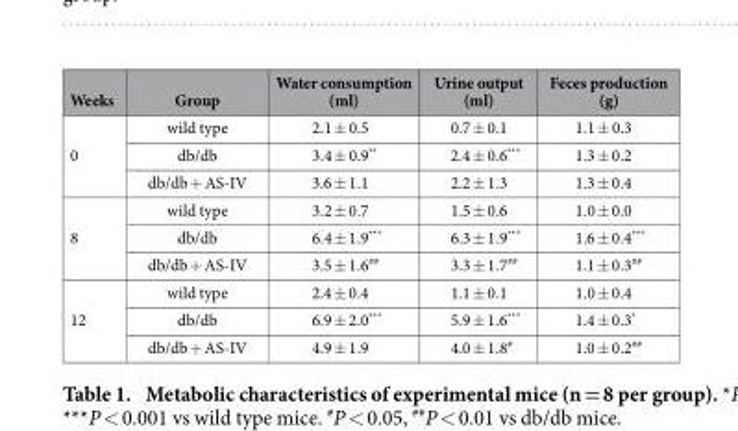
<table><thead><tr><td>Weeks</td><td>Group</td><td>Water consumption (ml)</td><td>Urine output (ml)</td><td>Feces production (g)</td></tr></thead><tbody><tr><td rowspan="3">0</td><td>wild type</td><td>2.1 ± 0.5</td><td>0.7 ± 0.1</td><td>1.1 ± 0.3</td></tr><tr><td>db/db</td><td>3.4 ± 0.9**</td><td>2.4 ± 0.6***</td><td>1.3 ± 0.2</td></tr><tr><td>db/db + AS-IV</td><td>3.6 ± 1.1</td><td>2.2 ± 1.3</td><td>1.3 ± 0.4</td></tr><tr><td rowspan="3">8</td><td>wild type</td><td>3.2 ± 0.7</td><td>1.5 ± 0.6</td><td>1.0 ± 0.0</td></tr><tr><td>db/db</td><td>6.4 ± 1.9***</td><td>6.3 ± 1.9***</td><td>1.6 ± 0.4***</td></tr><tr><td>db/db + AS-IV</td><td>3.5 ± 1.6##</td><td>3.3 ± 1.7##</td><td>1.1 ± 0.3##</td></tr><tr><td rowspan="3">12</td><td>wild type</td><td>2.4 ± 0.4</td><td>1.1 ± 0.1</td><td>1.0 ± 0.4</td></tr><tr><td>db/db</td><td>6.9 ± 2.0***</td><td>5.9 ± 1.6***</td><td>1.4 ± 0.3*</td></tr><tr><td>db/db + AS-IV</td><td>4.9 ± 1.9</td><td>4.0 ± 1.8#</td><td>1.0 ± 0.2##</td></tr></tbody></table>